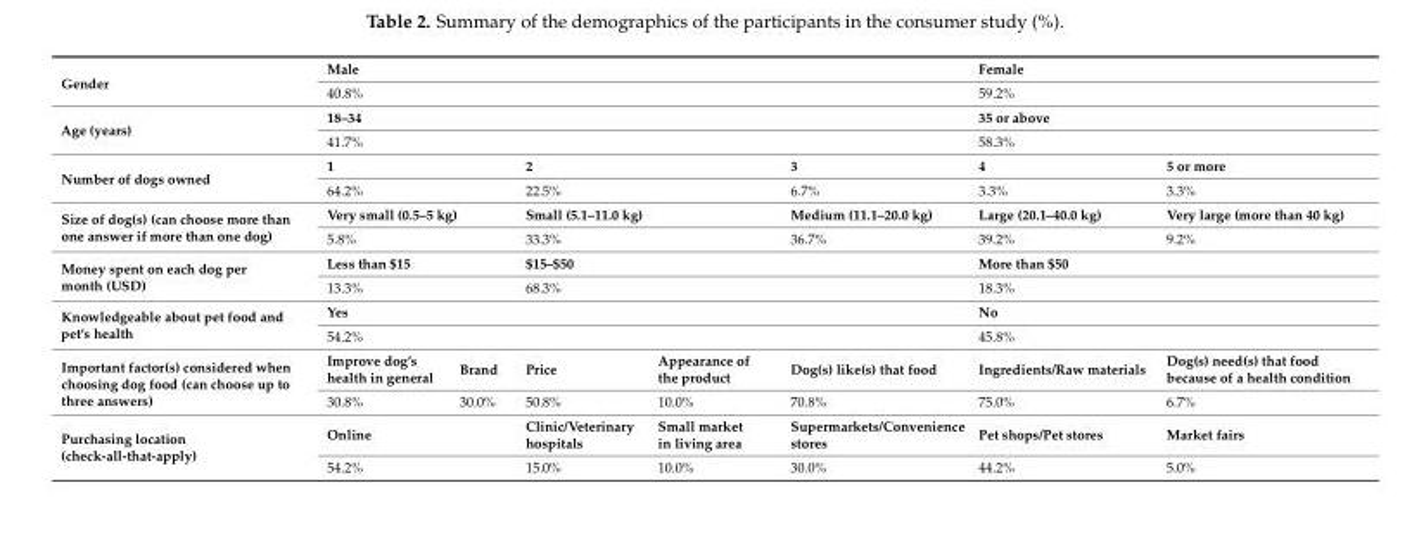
<table><tbody><tr><td rowspan="2">Gender</td><td colspan="5">Male</td><td colspan="2">Female</td></tr><tr><td colspan="5">40.8%</td><td colspan="2">59.2%</td></tr><tr><td rowspan="2">Age (years)</td><td colspan="5">18–34</td><td colspan="2">35 or above</td></tr><tr><td colspan="5">41.7%</td><td colspan="2">58.3%</td></tr><tr><td rowspan="2">Number of dogs owned</td><td colspan="2">1</td><td colspan="2">2</td><td>3</td><td>4</td><td>5 or more</td></tr><tr><td colspan="2">64.2%</td><td colspan="2">22.5%</td><td>6.7%</td><td>3.3%</td><td>3.3%</td></tr><tr><td rowspan="2">Size of dog(s) (can choose more than one answer if more than one dog)</td><td colspan="2">Very small (0.5–5 kg)</td><td colspan="2">Small (5.1–11.0 kg)</td><td>Medium (11.1–20.0 kg)</td><td>Large (20.1–40.0 kg)</td><td>Very large (more than 40 kg)</td></tr><tr><td colspan="2">5.8%</td><td colspan="2">33.3%</td><td>36.7%</td><td>39.2%</td><td>9.2%</td></tr><tr><td rowspan="2">Money spent on each dog per month (USD)</td><td colspan="2">Less than $15</td><td colspan="3">$15–$50</td><td colspan="2">More than $50</td></tr><tr><td colspan="2">13.3%</td><td colspan="3">68.3%</td><td colspan="2">18.3%</td></tr><tr><td rowspan="2">Knowledgeable about pet food and pet’s health</td><td colspan="5">Yes</td><td colspan="2">No</td></tr><tr><td colspan="5">54.2%</td><td colspan="2">45.8%</td></tr><tr><td rowspan="2">Important factor(s) considered when choosing dog food (can choose up to three answers)</td><td>Improve dog’s health in general</td><td>Brand</td><td>Price</td><td>Appearance of the product</td><td>Dog(s) like(s) that food</td><td>Ingredients/Raw materials</td><td>Dog(s) need(s) that food because of a health condition</td></tr><tr><td>30.8%</td><td>30.0%</td><td>50.8%</td><td>10.0%</td><td>70.8%</td><td>75.0%</td><td>6.7%</td></tr><tr><td rowspan="2">Purchasing location (check-all-that-apply)</td><td colspan="2">Online</td><td>Clinic/Veterinary hospitals</td><td>Small market in living area</td><td>Supermarkets/Convenience stores</td><td>Pet shops/Pet stores</td><td>Market fairs</td></tr><tr><td colspan="2">54.2%</td><td>15.0%</td><td>10.0%</td><td>30.0%</td><td>44.2%</td><td>5.0%</td></tr></tbody></table>